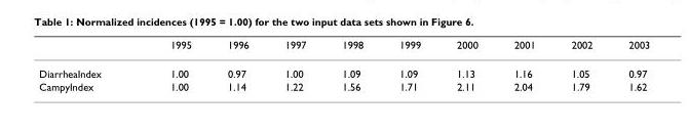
<table><thead><tr><td></td><td>1995</td><td>1996</td><td>1997</td><td>1998</td><td>1999</td><td>2000</td><td>2001</td><td>2002</td><td>2003</td></tr></thead><tbody><tr><td>DiarrheaIndex</td><td>1.00</td><td>0.97</td><td>1.00</td><td>1.09</td><td>1.09</td><td>1.13</td><td>1.16</td><td>1.05</td><td>0.97</td></tr><tr><td>CampyIndex</td><td>1.00</td><td>1.14</td><td>1.22</td><td>1.56</td><td>1.71</td><td>2.11</td><td>2.04</td><td>1.79</td><td>1.62</td></tr></tbody></table>